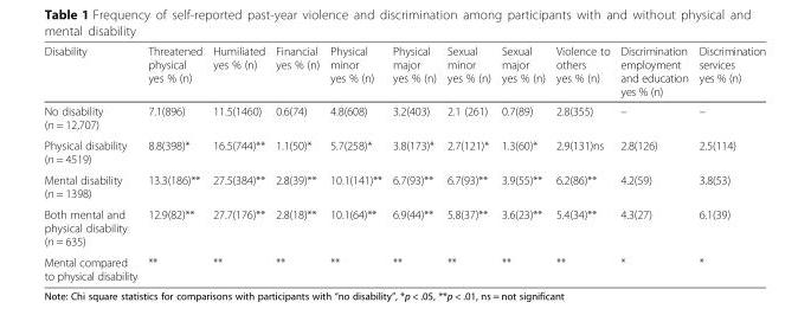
<table><thead><tr><td>Disability</td><td>Threatened physical yes % (n)</td><td>Humiliated yes % (n)</td><td>Financial yes % (n)</td><td>Physical minor yes % (n)</td><td>Physical major yes % (n)</td><td>Sexual minor yes % (n)</td><td>Sexual major yes % (n)</td><td>Violence to others yes % (n)</td><td>Discrimination employment and education yes % (n)</td><td>Discrimination services yes % (n)</td></tr></thead><tbody><tr><td>No disability (n = 12,707)</td><td>7.1(896)</td><td>11.5(1460)</td><td>0.6(74)</td><td>4.8(608)</td><td>3.2(403)</td><td>2.1 (261)</td><td>0.7(89)</td><td>2.8(355)</td><td>–</td><td>–</td></tr><tr><td>Physical disability (n = 4519)</td><td>8.8(398)*</td><td>16.5(744)**</td><td>1.1(50)*</td><td>5.7(258)*</td><td>3.8(173)*</td><td>2.7(121)*</td><td>1.3(60)*</td><td>2.9(131)ns</td><td>2.8(126)</td><td>2.5(114)</td></tr><tr><td>Mental disability (n = 1398)</td><td>13.3(186)**</td><td>27.5(384)**</td><td>2.8(39)**</td><td>10.1(141)**</td><td>6.7(93)**</td><td>6.7(93)**</td><td>3.9(55)**</td><td>6.2(86)**</td><td>4.2(59)</td><td>3.8(53)</td></tr><tr><td>Both mental and physical disability (n = 635)</td><td>12.9(82)**</td><td>27.7(176)**</td><td>2.8(18)**</td><td>10.1(64)**</td><td>6.9(44)**</td><td>5.8(37)**</td><td>3.6(23)**</td><td>5.4(34)**</td><td>4.3(27)</td><td>6.1(39)</td></tr><tr><td>Mental compared to physical disability</td><td>**</td><td>**</td><td>**</td><td>**</td><td>**</td><td>**</td><td>**</td><td>**</td><td>*</td><td>*</td></tr></tbody></table>